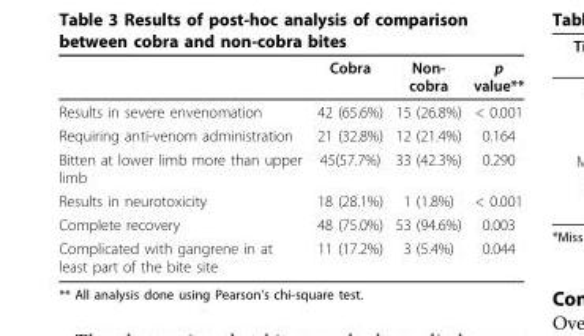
<table><thead><tr><td></td><td>Cobra</td><td>Non- cobra</td><td>p value**</td></tr></thead><tbody><tr><td>Results in severe envenomation</td><td>42 (65.6%)</td><td>15 (26.8%)</td><td>&lt; 0.001</td></tr><tr><td>Requiring anti-venom administration</td><td>21 (32.8%)</td><td>12 (21.4%)</td><td>0.164</td></tr><tr><td>Bitten at lower limb more than upper limb</td><td>45(57.7%)</td><td>33 (42.3%)</td><td>0.290</td></tr><tr><td>Results in neurotoxicity</td><td>18 (28.1%)</td><td>1 (1.8%)</td><td>&lt; 0.001</td></tr><tr><td>Complete recovery</td><td>48 (75.0%)</td><td>53 (94.6%)</td><td>0.003</td></tr><tr><td>Complicated with gangrene in at least part of the bite site</td><td>11 (17.2%)</td><td>3 (5.4%)</td><td>0.044</td></tr></tbody></table>